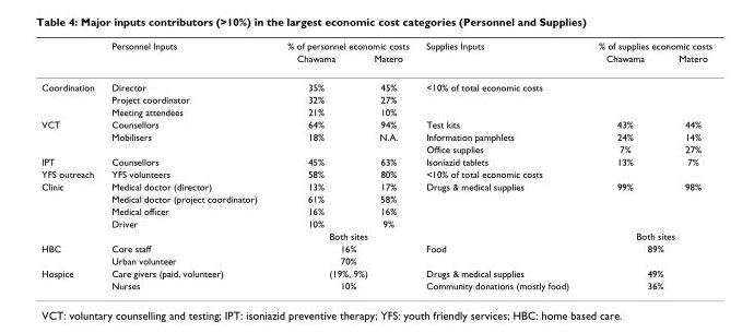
<table><thead><tr><td rowspan="2"></td><td rowspan="2">Personnel Inputs</td><td colspan="2">% of personnel economic costs</td><td rowspan="2">Supplies Inputs</td><td colspan="2">% of supplies economic costs</td></tr><tr><td>Chawama</td><td>Matero</td><td>Chawama</td><td>Matero</td></tr></thead><tbody><tr><td rowspan="3">Coordination</td><td>Director</td><td>35%</td><td>45%</td><td>&lt;10% of total economic costs</td><td></td><td></td></tr><tr><td>Project coordinator</td><td>32%</td><td>27%</td><td></td><td></td><td></td></tr><tr><td>Meeting attendees</td><td>21%</td><td>10%</td><td></td><td></td><td></td></tr><tr><td rowspan="3">VCT</td><td>Counsellors</td><td>64%</td><td>94%</td><td>Test kits</td><td>43%</td><td>44%</td></tr><tr><td>Mobilisers</td><td>18%</td><td>N.A.</td><td>Information pamphlets</td><td>24%</td><td>14%</td></tr><tr><td></td><td></td><td></td><td>Office supplies</td><td>7%</td><td>27%</td></tr><tr><td>IPT</td><td>Counsellors</td><td>45%</td><td>63%</td><td>Isoniazid tablets</td><td>13%</td><td>7%</td></tr><tr><td>YFS outreach</td><td>YFS volunteers</td><td>58%</td><td>80%</td><td>&lt;10% of total economic costs</td><td></td><td></td></tr><tr><td rowspan="5">Clinic</td><td>Medical doctor (director)</td><td>13%</td><td>17%</td><td>Drugs &amp; medical supplies</td><td>99%</td><td>98%</td></tr><tr><td>Medical doctor (project coordinator)</td><td>61%</td><td>58%</td><td></td><td></td><td></td></tr><tr><td>Medical officer</td><td>16%</td><td>16%</td><td></td><td></td><td></td></tr><tr><td>Driver</td><td>10%</td><td>9%</td><td></td><td></td><td></td></tr><tr><td></td><td colspan="2">Both sites</td><td></td><td colspan="2">Both sites</td></tr><tr><td rowspan="2">HBC</td><td>Core staff</td><td colspan="2">16%</td><td>Food</td><td colspan="2">89%</td></tr><tr><td>Urban volunteer</td><td colspan="2">70%</td><td></td><td></td><td></td></tr><tr><td rowspan="2">Hospice</td><td>Care givers (paid, volunteer)</td><td colspan="2">(19%, 9%)</td><td>Drugs &amp; medical supplies</td><td colspan="2">49%</td></tr><tr><td>Nurses</td><td colspan="2">10%</td><td>Community donations (mostly food)</td><td colspan="2">36%</td></tr></tbody></table>